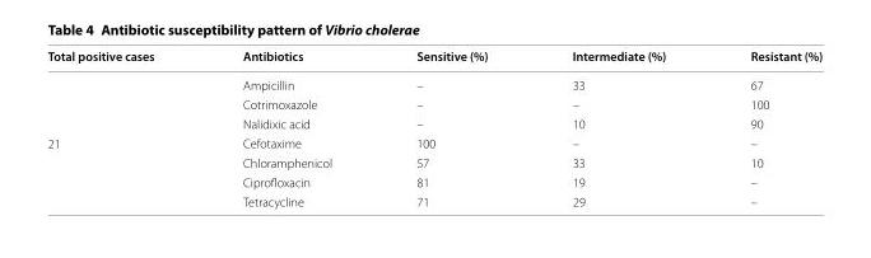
<table><thead><tr><td>Total positive cases</td><td>Antibiotics</td><td>Sensitive (%)</td><td>Intermediate (%)</td><td>Resistant (%)</td></tr></thead><tbody><tr><td></td><td>Ampicillin</td><td>–</td><td>33</td><td>67</td></tr><tr><td></td><td>Cotrimoxazole</td><td>–</td><td>–</td><td>100</td></tr><tr><td></td><td>Nalidixic acid</td><td>–</td><td>10</td><td>90</td></tr><tr><td rowspan="4">21</td><td>Cefotaxime</td><td>100</td><td>–</td><td>–</td></tr><tr><td>Chloramphenicol</td><td>57</td><td>33</td><td>10</td></tr><tr><td>Ciprofloxacin</td><td>81</td><td>19</td><td>–</td></tr><tr><td>Tetracycline</td><td>71</td><td>29</td><td>–</td></tr></tbody></table>